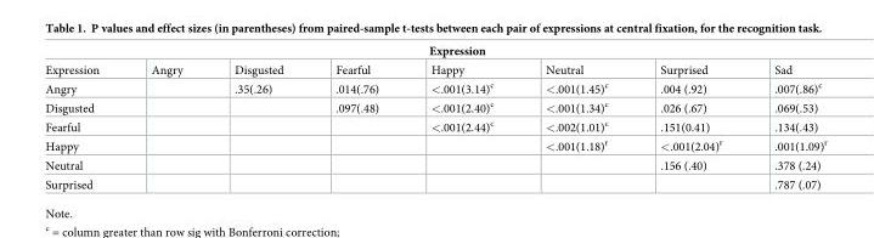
<table><thead><tr><td colspan="8">Expression</td></tr><tr><td>Expression</td><td>Angry</td><td>Disgusted</td><td>Fearful</td><td>Happy</td><td>Neutral</td><td>Surprised</td><td>Sad</td></tr></thead><tbody><tr><td>Angry</td><td></td><td>.35(.26)</td><td>.014(.76)</td><td>&lt;.001(3.14)<sup>c</sup></td><td>&lt;.001(1.45)<sup>c</sup></td><td>.004 (.92)</td><td>.007(.86)<sup>c</sup></td></tr><tr><td>Disgusted</td><td></td><td></td><td>.097(.48)</td><td>&lt;.001(2.40)<sup>c</sup></td><td>&lt;.001(1.34)<sup>c</sup></td><td>.026 (.67)</td><td>.069(.53)</td></tr><tr><td>Fearful</td><td></td><td></td><td></td><td>&lt;.001(2.44)<sup>c</sup></td><td>&lt;.002(1.01)<sup>c</sup></td><td>.151(0.41)</td><td>.134(.43)</td></tr><tr><td>Happy</td><td></td><td></td><td></td><td></td><td>&lt;.001(1.18)<sup>r</sup></td><td>&lt;.001(2.04)<sup>r</sup></td><td>.001(1.09)<sup>r</sup></td></tr><tr><td>Neutral</td><td></td><td></td><td></td><td></td><td></td><td>.156 (.40)</td><td>.378 (.24)</td></tr><tr><td>Surprised</td><td></td><td></td><td></td><td></td><td></td><td></td><td>.787 (.07)</td></tr></tbody></table>